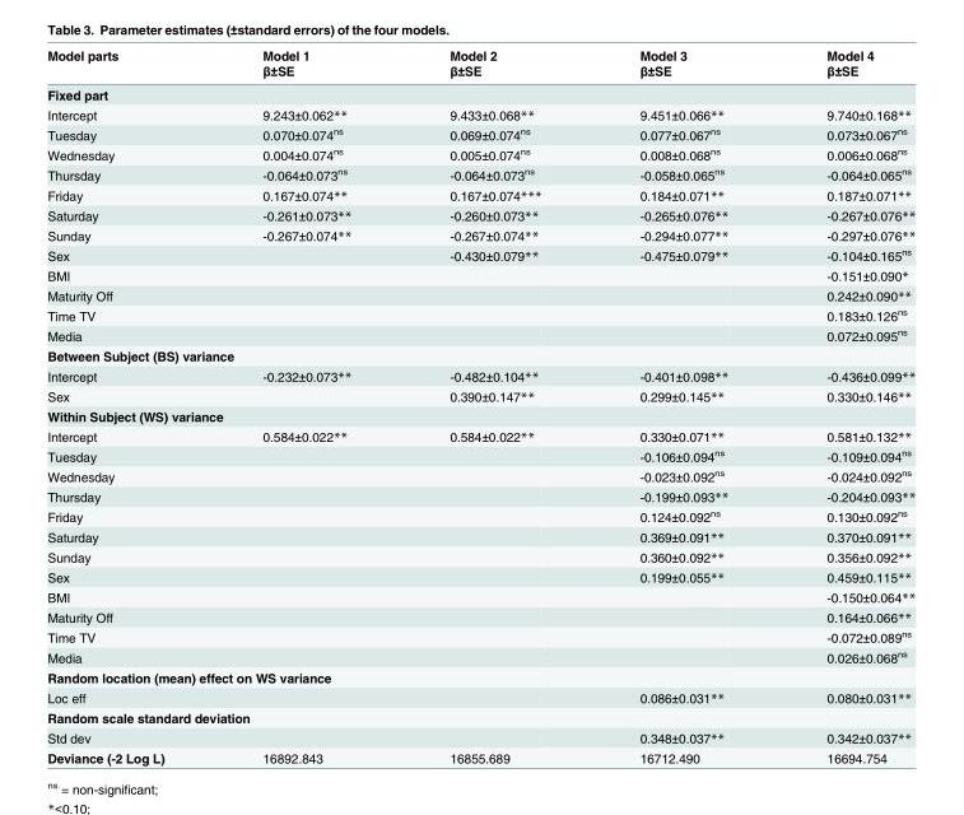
<table><thead><tr><td rowspan="2">Model parts</td><td rowspan="2">Model 1 β±SE</td><td rowspan="2">Model 2 β±SE</td><td rowspan="2">Model 3 β±SE</td><td rowspan="2">Model 4 β±SE</td></tr><tr></tr></thead><tbody><tr><td colspan="5">Fixed part</td></tr><tr><td>Intercept</td><td>9.243±0.062**</td><td>9.433±0.068**</td><td>9.451±0.066**</td><td>9.740±0.168**</td></tr><tr><td>Tuesday</td><td>0.070±0.074<sup>ns</sup></td><td>0.069±0.074<sup>ns</sup></td><td>0.077±0.067<sup>ns</sup></td><td>0.073±0.067<sup>ns</sup></td></tr><tr><td>Wednesday</td><td>0.004±0.074<sup>ns</sup></td><td>0.005±0.074<sup>ns</sup></td><td>0.008±0.068<sup>ns</sup></td><td>0.006±0.068<sup>ns</sup></td></tr><tr><td>Thursday</td><td>-0.064±0.073<sup>ns</sup></td><td>-0.064±0.073<sup>ns</sup></td><td>-0.058±0.065<sup>ns</sup></td><td>-0.064±0.065<sup>ns</sup></td></tr><tr><td>Friday</td><td>0.167±0.074**</td><td>0.167±0.074***</td><td>0.184±0.071**</td><td>0.187±0.071**</td></tr><tr><td>Saturday</td><td>-0.261±0.073**</td><td>-0.260±0.073**</td><td>-0.265±0.076**</td><td>-0.267±0.076**</td></tr><tr><td>Sunday</td><td>-0.267±0.074**</td><td>-0.267±0.074**</td><td>-0.294±0.077**</td><td>-0.297±0.076**</td></tr><tr><td>Sex</td><td></td><td>-0.430±0.079**</td><td>-0.475±0.079**</td><td>-0.104±0.165<sup>ns</sup></td></tr><tr><td>BMI</td><td></td><td></td><td></td><td>-0.151±0.090*</td></tr><tr><td>Maturity Off</td><td></td><td></td><td></td><td>0.242±0.090**</td></tr><tr><td>Time TV</td><td></td><td></td><td></td><td>0.183±0.126<sup>ns</sup></td></tr><tr><td>Media</td><td></td><td></td><td></td><td>0.072±0.095<sup>ns</sup></td></tr><tr><td colspan="5">Between Subject (BS) variance</td></tr><tr><td>Intercept</td><td>-0.232±0.073**</td><td>-0.482±0.104**</td><td>-0.401±0.098**</td><td>-0.436±0.099**</td></tr><tr><td>Sex</td><td></td><td>0.390±0.147**</td><td>0.299±0.145**</td><td>0.330±0.146**</td></tr><tr><td colspan="5">Within Subject (WS) variance</td></tr><tr><td>Intercept</td><td>0.584±0.022**</td><td>0.584±0.022**</td><td>0.330±0.071**</td><td>0.581±0.132**</td></tr><tr><td>Tuesday</td><td></td><td></td><td>-0.106±0.094<sup>ns</sup></td><td>-0.109±0.094<sup>ns</sup></td></tr><tr><td>Wednesday</td><td></td><td></td><td>-0.023±0.092<sup>ns</sup></td><td>-0.024±0.092<sup>ns</sup></td></tr><tr><td>Thursday</td><td></td><td></td><td>-0.199±0.093**</td><td>-0.204±0.093**</td></tr><tr><td>Friday</td><td></td><td></td><td>0.124±0.092<sup>ns</sup></td><td>0.130±0.092<sup>ns</sup></td></tr><tr><td>Saturday</td><td></td><td></td><td>0.369±0.091**</td><td>0.370±0.091**</td></tr><tr><td>Sunday</td><td></td><td></td><td>0.360±0.092**</td><td>0.356±0.092**</td></tr><tr><td>Sex</td><td></td><td></td><td>0.199±0.055**</td><td>0.459±0.115**</td></tr><tr><td>BMI</td><td></td><td></td><td></td><td>-0.150±0.064**</td></tr><tr><td>Maturity Off</td><td></td><td></td><td></td><td>0.164±0.066**</td></tr><tr><td>Time TV</td><td></td><td></td><td></td><td>-0.072±0.089<sup>ns</sup></td></tr><tr><td>Media</td><td></td><td></td><td></td><td>0.026±0.068<sup>ns</sup></td></tr><tr><td colspan="5">Random location (mean) effect on WS variance</td></tr><tr><td>Loc eff</td><td></td><td></td><td>0.086±0.031**</td><td>0.080±0.031**</td></tr><tr><td colspan="5">Random scale standard deviation</td></tr><tr><td>Std dev</td><td></td><td></td><td>0.348±0.037**</td><td>0.342±0.037**</td></tr><tr><td>Deviance (-2 Log L)</td><td>16892.843</td><td>16855.689</td><td>16712.490</td><td>16694.754</td></tr></tbody></table>